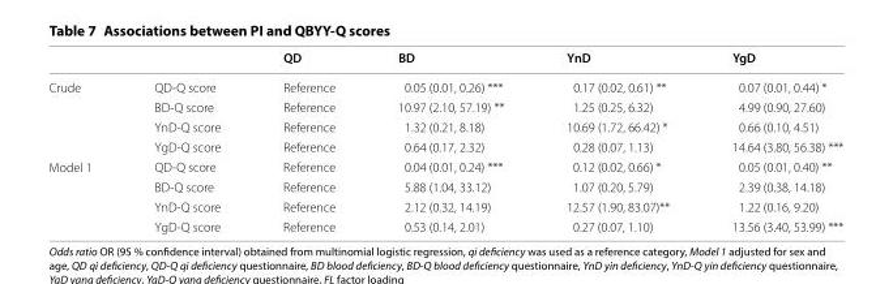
<table><thead><tr><td></td><td></td><td>QD</td><td>BD</td><td>YnD</td><td>YgD</td></tr></thead><tbody><tr><td rowspan="4">Crude</td><td>QD-Q score</td><td>Reference</td><td>0.05 (0.01, 0.26) ***</td><td>0.17 (0.02, 0.61) **</td><td>0.07 (0.01, 0.44) *</td></tr><tr><td>BD-Q score</td><td>Reference</td><td>10.97 (2.10, 57.19) **</td><td>1.25 (0.25, 6.32)</td><td>4.99 (0.90, 27.60)</td></tr><tr><td>YnD-Q score</td><td>Reference</td><td>1.32 (0.21, 8.18)</td><td>10.69 (1.72, 66.42) *</td><td>0.66 (0.10, 4.51)</td></tr><tr><td>YgD-Q score</td><td>Reference</td><td>0.64 (0.17, 2.32)</td><td>0.28 (0.07, 1.13)</td><td>14.64 (3.80, 56.38) ***</td></tr><tr><td rowspan="4">Model 1</td><td>QD-Q score</td><td>Reference</td><td>0.04 (0.01, 0.24) ***</td><td>0.12 (0.02, 0.66) *</td><td>0.05 (0.01, 0.40) **</td></tr><tr><td>BD-Q score</td><td>Reference</td><td>5.88 (1.04, 33.12)</td><td>1.07 (0.20, 5.79)</td><td>2.39 (0.38, 14.18)</td></tr><tr><td>YnD-Q score</td><td>Reference</td><td>2.12 (0.32, 14.19)</td><td>12.57 (1.90, 83.07)**</td><td>1.22 (0.16, 9.20)</td></tr><tr><td>YgD-Q score</td><td>Reference</td><td>0.53 (0.14, 2.01)</td><td>0.27 (0.07, 1.10)</td><td>13.56 (3.40, 53.99) ***</td></tr></tbody></table>